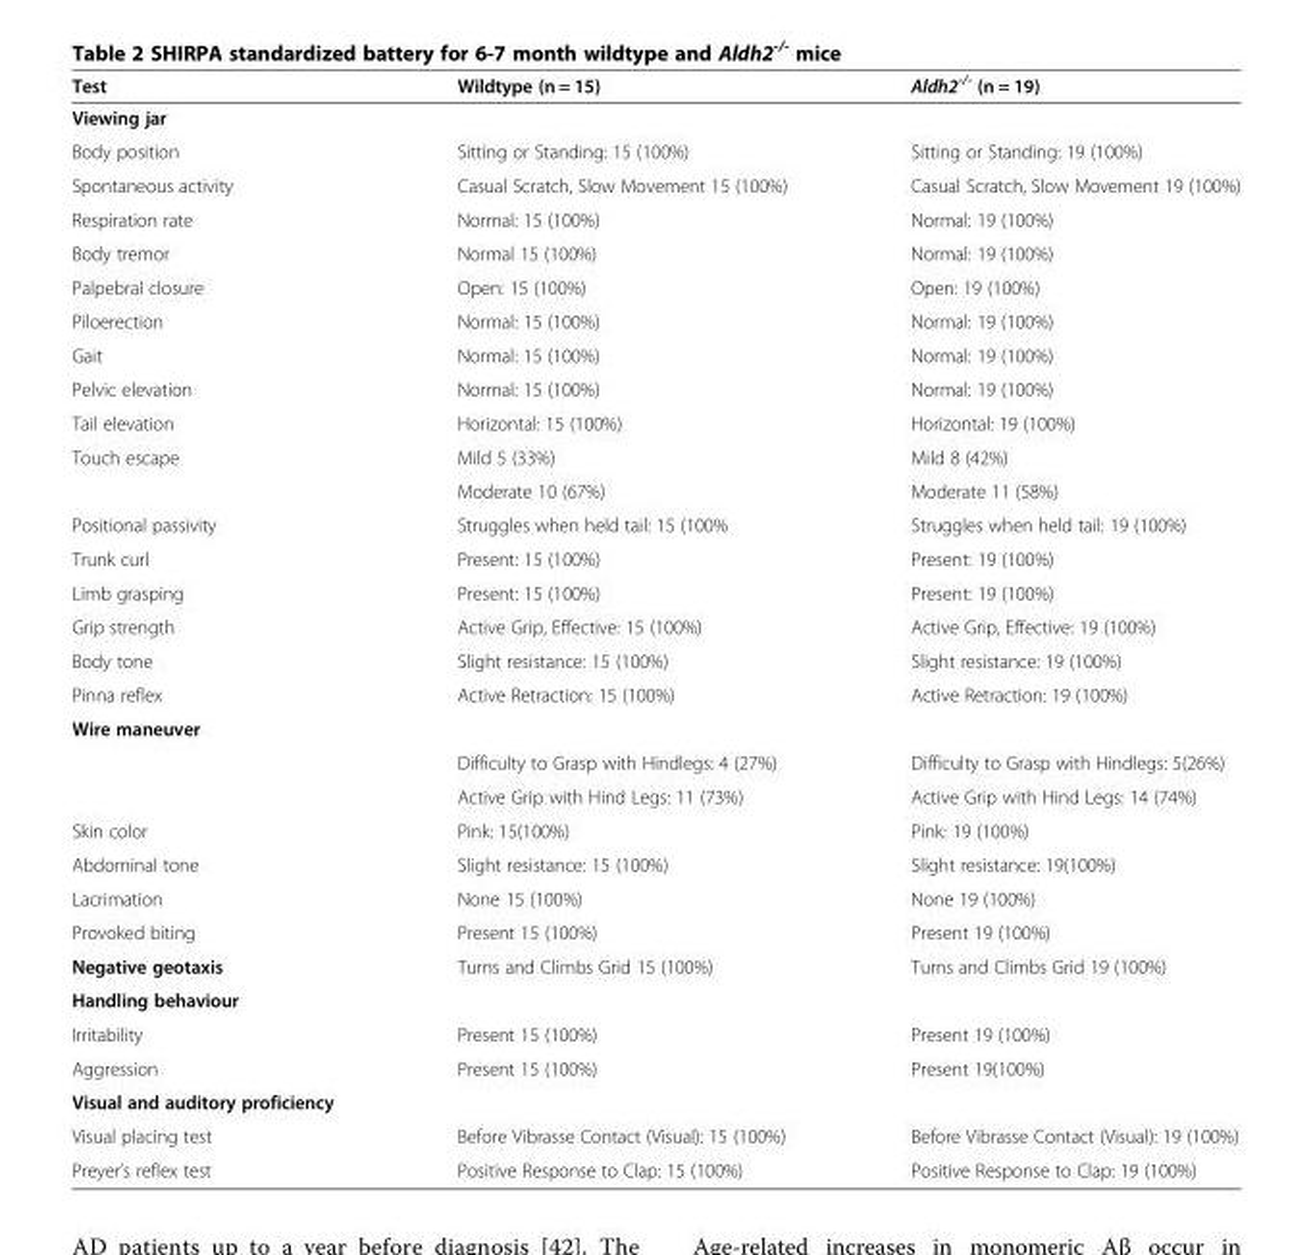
<table><thead><tr><td>Test</td><td>Wildtype (n = 15)</td><td>Aldh2<sup>-/-</sup> (n = 19)</td></tr></thead><tbody><tr><td colspan="3">Viewing jar</td></tr><tr><td>Body position</td><td>Sitting or Standing: 15 (100%)</td><td>Sitting or Standing: 19 (100%)</td></tr><tr><td>Spontaneous activity</td><td>Casual Scratch, Slow Movement 15 (100%)</td><td>Casual Scratch, Slow Movement 19 (100%)</td></tr><tr><td>Respiration rate</td><td>Normal: 15 (100%)</td><td>Normal: 19 (100%)</td></tr><tr><td>Body tremor</td><td>Normal 15 (100%)</td><td>Normal: 19 (100%)</td></tr><tr><td>Palpebral closure</td><td>Open: 15 (100%)</td><td>Open: 19 (100%)</td></tr><tr><td>Piloerection</td><td>Normal: 15 (100%)</td><td>Normal: 19 (100%)</td></tr><tr><td>Gait</td><td>Normal: 15 (100%)</td><td>Normal: 19 (100%)</td></tr><tr><td>Pelvic elevation</td><td>Normal: 15 (100%)</td><td>Normal: 19 (100%)</td></tr><tr><td>Tail elevation</td><td>Horizontal: 15 (100%)</td><td>Horizontal: 19 (100%)</td></tr><tr><td rowspan="2">Touch escape</td><td>Mild 5 (33%)</td><td>Mild 8 (42%)</td></tr><tr><td>Moderate 10 (67%)</td><td>Moderate 11 (58%)</td></tr><tr><td>Positional passivity</td><td>Struggles when held tail: 15 (100%</td><td>Struggles when held tail: 19 (100%)</td></tr><tr><td>Trunk curl</td><td>Present: 15 (100%)</td><td>Present: 19 (100%)</td></tr><tr><td>Limb grasping</td><td>Present: 15 (100%)</td><td>Present: 19 (100%)</td></tr><tr><td>Grip strength</td><td>Active Grip, Effective: 15 (100%)</td><td>Active Grip, Effective: 19 (100%)</td></tr><tr><td>Body tone</td><td>Slight resistance: 15 (100%)</td><td>Slight resistance: 19 (100%)</td></tr><tr><td>Pinna reflex</td><td>Active Retraction: 15 (100%)</td><td>Active Retraction: 19 (100%)</td></tr><tr><td colspan="3">Wire maneuver</td></tr><tr><td></td><td>Difficulty to Grasp with Hindlegs: 4 (27%)</td><td>Difficulty to Grasp with Hindlegs: 5(26%)</td></tr><tr><td></td><td>Active Grip with Hind Legs: 11 (73%)</td><td>Active Grip with Hind Legs: 14 (74%)</td></tr><tr><td>Skin color</td><td>Pink: 15(100%)</td><td>Pink: 19 (100%)</td></tr><tr><td>Abdominal tone</td><td>Slight resistance: 15 (100%)</td><td>Slight resistance: 19(100%)</td></tr><tr><td>Lacrimation</td><td>None 15 (100%)</td><td>None 19 (100%)</td></tr><tr><td>Provoked biting</td><td>Present 15 (100%)</td><td>Present 19 (100%)</td></tr><tr><td>Negative geotaxis</td><td>Turns and Climbs Grid 15 (100%)</td><td>Turns and Climbs Grid 19 (100%)</td></tr><tr><td colspan="3">Handling behaviour</td></tr><tr><td>Irritability</td><td>Present 15 (100%)</td><td>Present 19 (100%)</td></tr><tr><td>Aggression</td><td>Present 15 (100%)</td><td>Present 19(100%)</td></tr><tr><td colspan="3">Visual and auditory proficiency</td></tr><tr><td>Visual placing test</td><td>Before Vibrasse Contact (Visual): 15 (100%)</td><td>Before Vibrasse Contact (Visual): 19 (100%)</td></tr><tr><td>Preyer’s reflex test</td><td>Positive Response to Clap: 15 (100%)</td><td>Positive Response to Clap: 19 (100%)</td></tr></tbody></table>